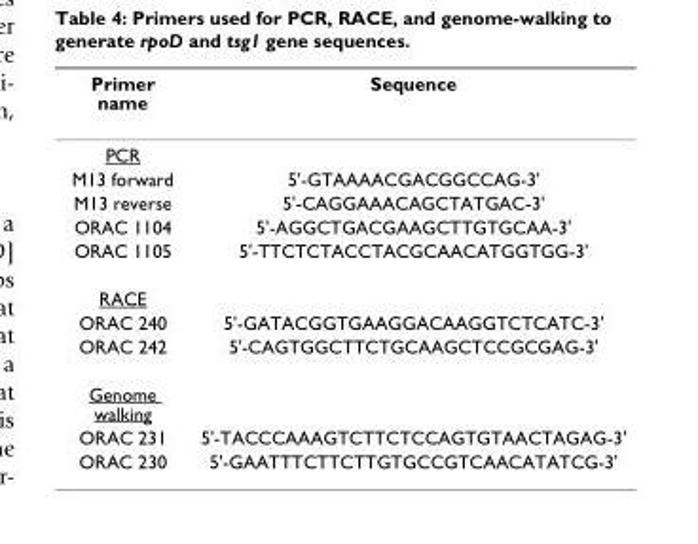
<table><thead><tr><td>Primer name</td><td>Sequence</td></tr></thead><tbody><tr><td colspan="2">PCR</td></tr><tr><td>M13 forward</td><td>5&#x27;-GTAAAACGACGGCCAG-3&#x27;</td></tr><tr><td>M13 reverse</td><td>5&#x27;-CAGGAAACAGCTATGAC-3&#x27;</td></tr><tr><td>ORAC 1104</td><td>5&#x27;-AGGCTGACGAAGCTTGTGCAA-3&#x27;</td></tr><tr><td>ORAC 1105</td><td>5&#x27;-TTCTCTACCTACGCAACATGGTGG-3&#x27;</td></tr><tr><td colspan="2">RACE</td></tr><tr><td>ORAC 240</td><td>5&#x27;-GATACGGTGAAGGACAAGGTCTCATC-3&#x27;</td></tr><tr><td>ORAC 242</td><td>5&#x27;-CAGTGGCTTCTGCAAGCTCCGCGAG-3&#x27;</td></tr><tr><td colspan="2">Genome walking</td></tr><tr><td>ORAC 231</td><td>5&#x27;-TACCCAAAGTCTTCTCCAGTGTAACTAGAG-3&#x27;</td></tr><tr><td>ORAC 230</td><td>5&#x27;-GAATTTCTTCTTGTGCCGTCAACATATCG-3&#x27;</td></tr></tbody></table>